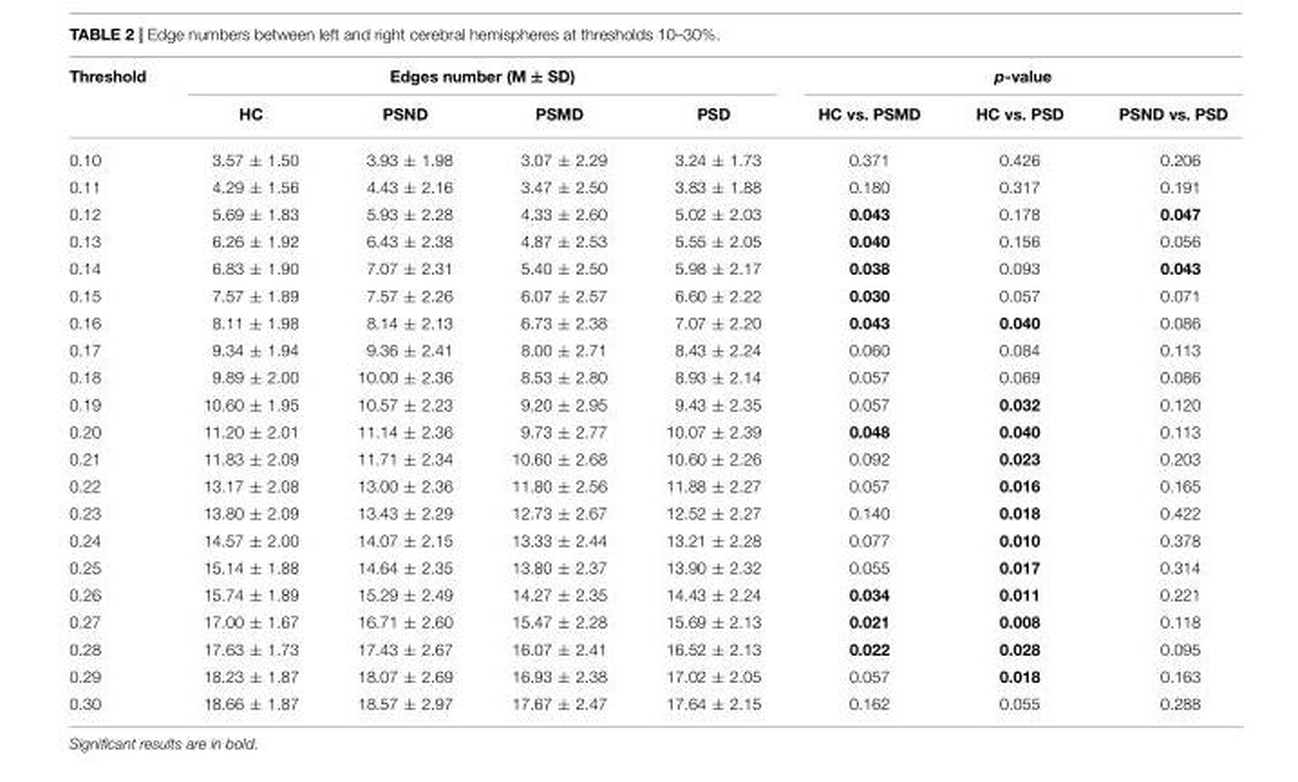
<table><thead><tr><td rowspan="2">Threshold</td><td colspan="4">Edges number (M ± SD)</td><td colspan="3">p-value</td></tr><tr><td>HC</td><td>PSND</td><td>PSMD</td><td>PSD</td><td>HC vs. PSMD</td><td>HC vs. PSD</td><td>PSND vs. PSD</td></tr></thead><tbody><tr><td>0.10</td><td>3.57 ± 1.50</td><td>3.93 ± 1.98</td><td>3.07 ± 2.29</td><td>3.24 ± 1.73</td><td>0.371</td><td>0.426</td><td>0.206</td></tr><tr><td>0.11</td><td>4.29 ± 1.56</td><td>4.43 ± 2.16</td><td>3.47 ± 2.50</td><td>3.83 ± 1.88</td><td>0.180</td><td>0.317</td><td>0.191</td></tr><tr><td>0.12</td><td>5.69 ± 1.83</td><td>5.93 ± 2.28</td><td>4.33 ± 2.60</td><td>5.02 ± 2.03</td><td>0.043</td><td>0.178</td><td>0.047</td></tr><tr><td>0.13</td><td>6.26 ± 1.92</td><td>6.43 ± 2.38</td><td>4.87 ± 2.53</td><td>5.55 ± 2.05</td><td>0.040</td><td>0.156</td><td>0.056</td></tr><tr><td>0.14</td><td>6.83 ± 1.90</td><td>7.07 ± 2.31</td><td>5.40 ± 2.50</td><td>5.98 ± 2.17</td><td>0.038</td><td>0.093</td><td>0.043</td></tr><tr><td>0.15</td><td>7.57 ± 1.89</td><td>7.57 ± 2.26</td><td>6.07 ± 2.57</td><td>6.60 ± 2.22</td><td>0.030</td><td>0.057</td><td>0.071</td></tr><tr><td>0.16</td><td>8.11 ± 1.98</td><td>8.14 ± 2.13</td><td>6.73 ± 2.38</td><td>7.07 ± 2.20</td><td>0.043</td><td>0.040</td><td>0.086</td></tr><tr><td>0.17</td><td>9.34 ± 1.94</td><td>9.36 ± 2.41</td><td>8.00 ± 2.71</td><td>8.43 ± 2.24</td><td>0.060</td><td>0.084</td><td>0.113</td></tr><tr><td>0.18</td><td>9.89 ± 2.00</td><td>10.00 ± 2.36</td><td>8.53 ± 2.80</td><td>8.93 ± 2.14</td><td>0.057</td><td>0.069</td><td>0.086</td></tr><tr><td>0.19</td><td>10.60 ± 1.95</td><td>10.57 ± 2.23</td><td>9.20 ± 2.95</td><td>9.43 ± 2.35</td><td>0.057</td><td>0.032</td><td>0.120</td></tr><tr><td>0.20</td><td>11.20 ± 2.01</td><td>11.14 ± 2.36</td><td>9.73 ± 2.77</td><td>10.07 ± 2.39</td><td>0.048</td><td>0.040</td><td>0.113</td></tr><tr><td>0.21</td><td>11.83 ± 2.09</td><td>11.71 ± 2.34</td><td>10.60 ± 2.68</td><td>10.60 ± 2.26</td><td>0.092</td><td>0.023</td><td>0.203</td></tr><tr><td>0.22</td><td>13.17 ± 2.08</td><td>13.00 ± 2.36</td><td>11.80 ± 2.56</td><td>11.88 ± 2.27</td><td>0.057</td><td>0.016</td><td>0.165</td></tr><tr><td>0.23</td><td>13.80 ± 2.09</td><td>13.43 ± 2.29</td><td>12.73 ± 2.67</td><td>12.52 ± 2.27</td><td>0.140</td><td>0.018</td><td>0.422</td></tr><tr><td>0.24</td><td>14.57 ± 2.00</td><td>14.07 ± 2.15</td><td>13.33 ± 2.44</td><td>13.21 ± 2.28</td><td>0.077</td><td>0.010</td><td>0.378</td></tr><tr><td>0.25</td><td>15.14 ± 1.88</td><td>14.64 ± 2.35</td><td>13.80 ± 2.37</td><td>13.90 ± 2.32</td><td>0.055</td><td>0.017</td><td>0.314</td></tr><tr><td>0.26</td><td>15.74 ± 1.89</td><td>15.29 ± 2.49</td><td>14.27 ± 2.35</td><td>14.43 ± 2.24</td><td>0.034</td><td>0.011</td><td>0.221</td></tr><tr><td>0.27</td><td>17.00 ± 1.67</td><td>16.71 ± 2.60</td><td>15.47 ± 2.28</td><td>15.69 ± 2.13</td><td>0.021</td><td>0.008</td><td>0.118</td></tr><tr><td>0.28</td><td>17.63 ± 1.73</td><td>17.43 ± 2.67</td><td>16.07 ± 2.41</td><td>16.52 ± 2.13</td><td>0.022</td><td>0.028</td><td>0.095</td></tr><tr><td>0.29</td><td>18.23 ± 1.87</td><td>18.07 ± 2.69</td><td>16.93 ± 2.38</td><td>17.02 ± 2.05</td><td>0.057</td><td>0.018</td><td>0.163</td></tr><tr><td>0.30</td><td>18.66 ± 1.87</td><td>18.57 ± 2.97</td><td>17.67 ± 2.47</td><td>17.64 ± 2.15</td><td>0.162</td><td>0.055</td><td>0.288</td></tr></tbody></table>